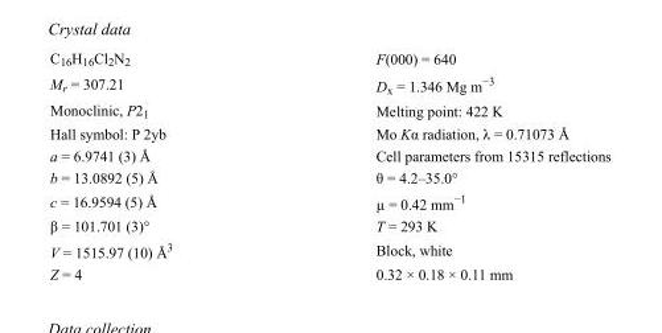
<table><tbody><tr><td>C<sub>16</sub>H<sub>16</sub>Cl<sub>2</sub>N<sub>2</sub></td><td>F(000) = 640</td></tr><tr><td>M<sub>r</sub> = 307.21</td><td>D<sub>x</sub> = 1.346 Mg m<sup>−3</sup></td></tr><tr><td>Monoclinic, P2<sub>1</sub></td><td>Melting point: 422 K</td></tr><tr><td>Hall symbol: P 2yb</td><td>Mo Kα radiation, λ = 0.71073 Å</td></tr><tr><td>a = 6.9741 (3) Å</td><td>Cell parameters from 15315 reflections</td></tr><tr><td>b = 13.0892 (5) Å</td><td>θ = 4.2–35.0°</td></tr><tr><td>c = 16.9594 (5) Å</td><td>µ = 0.42 mm<sup>−1</sup></td></tr><tr><td>β = 101.701 (3)°</td><td>T = 293 K</td></tr><tr><td>V = 1515.97 (10) Å<sup>3</sup></td><td>Block, white</td></tr><tr><td>Z = 4</td><td>0.32 × 0.18 × 0.11 mm</td></tr></tbody></table>